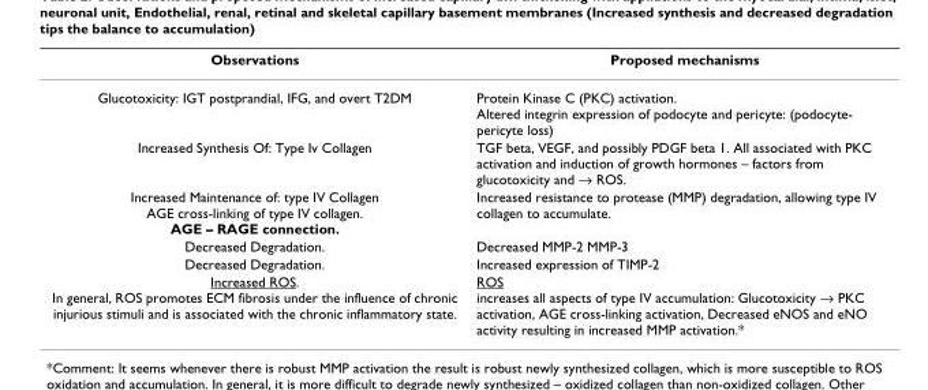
<table><thead><tr><td>Observations</td><td>Proposed mechanisms</td></tr></thead><tbody><tr><td>Glucotoxicity: IGT postprandial, IFG, and overt T2DM</td><td>Protein Kinase C (PKC) activation. Altered integrin expression of podocyte and pericyte: (podocyte- pericyte loss)</td></tr><tr><td>Increased Synthesis Of: Type Iv Collagen</td><td>TGF beta, VEGF, and possibly PDGF beta 1. All associated with PKC activation and induction of growth hormones – factors from glucotoxicity and → ROS.</td></tr><tr><td>Increased Maintenance of: type IV Collagen AGE cross-linking of type IV collagen. AGE – RAGE connection.</td><td>Increased resistance to protease (MMP) degradation, allowing type IV collagen to accumulate.</td></tr><tr><td>Decreased Degradation.</td><td>Decreased MMP-2 MMP-3</td></tr><tr><td>Decreased Degradation.</td><td>Increased expression of TIMP-2</td></tr><tr><td>Increased ROS. In general, ROS promotes ECM fibrosis under the influence of chronic injurious stimuli and is associated with the chronic inflammatory state.</td><td>ROS increases all aspects of type IV accumulation: Glucotoxicity → PKC activation, AGE cross-linking activation, Decreased eNOS and eNO activity resulting in increased MMP activation.*</td></tr></tbody></table>